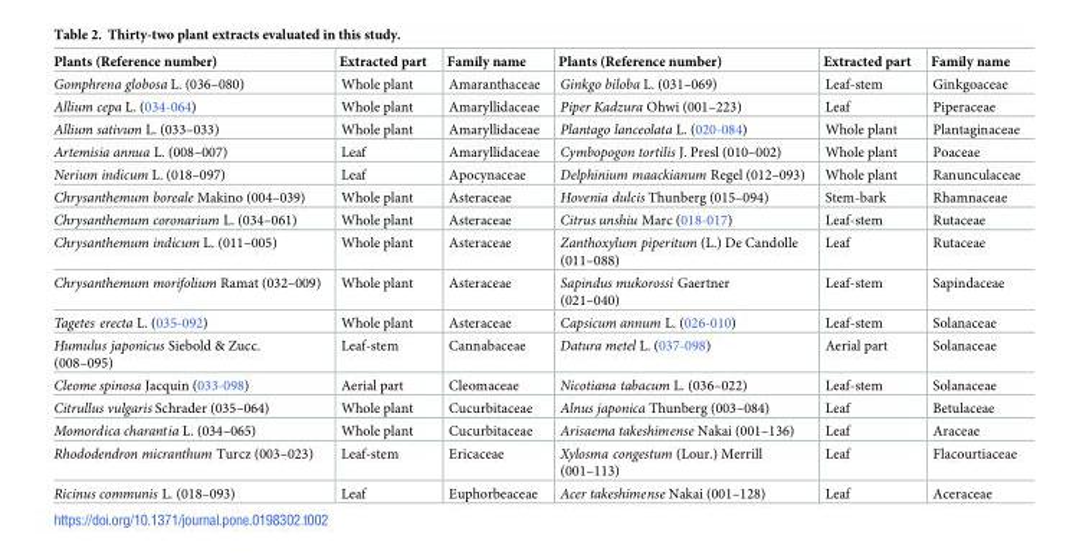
<table><thead><tr><td>Plants (Reference number)</td><td>Extracted part</td><td>Family name</td><td>Plants (Reference number)</td><td>Extracted part</td><td>Family name</td></tr></thead><tbody><tr><td>Gomphrena globosa L. (036–080)</td><td>Whole plant</td><td>Amaranthaceae</td><td>Ginkgo biloba L. (031–069)</td><td>Leaf-stem</td><td>Ginkgoaceae</td></tr><tr><td>Allium cepa L. (034-064)</td><td>Whole plant</td><td>Amaryllidaceae</td><td>Piper Kadzura Ohwi (001–223)</td><td>Leaf</td><td>Piperaceae</td></tr><tr><td>Allium sativum L. (033–033)</td><td>Whole plant</td><td>Amaryllidaceae</td><td>Plantago lanceolata L. (020-084)</td><td>Whole plant</td><td>Plantaginaceae</td></tr><tr><td>Artemisia annua L. (008–007)</td><td>Leaf</td><td>Amaryllidaceae</td><td>Cymbopogon tortilis J. Presl (010–002)</td><td>Whole plant</td><td>Poaceae</td></tr><tr><td>Nerium indicum L. (018–097)</td><td>Leaf</td><td>Apocynaceae</td><td>Delphinium maackianum Regel (012–093)</td><td>Whole plant</td><td>Ranunculaceae</td></tr><tr><td>Chrysanthemum boreale Makino (004–039)</td><td>Whole plant</td><td>Asteraceae</td><td>Hovenia dulcis Thunberg (015–094)</td><td>Stem-bark</td><td>Rhamnaceae</td></tr><tr><td>Chrysanthemum coronarium L. (034–061)</td><td>Whole plant</td><td>Asteraceae</td><td>Citrus unshiu Marc (018-017)</td><td>Leaf-stem</td><td>Rutaceae</td></tr><tr><td>Chrysanthemum indicum L. (011–005)</td><td>Whole plant</td><td>Asteraceae</td><td>Zanthoxylum piperitum (L.) De Candolle (011–088)</td><td>Leaf</td><td>Rutaceae</td></tr><tr><td>Chrysanthemum morifolium Ramat (032–009)</td><td>Whole plant</td><td>Asteraceae</td><td>Sapindus mukorossi Gaertner (021–040)</td><td>Leaf-stem</td><td>Sapindaceae</td></tr><tr><td>Tagetes erecta L. (035-092)</td><td>Whole plant</td><td>Asteraceae</td><td>Capsicum annum L. (026-010)</td><td>Leaf-stem</td><td>Solanaceae</td></tr><tr><td>Humulus japonicus Siebold &amp; Zucc. (008–095)</td><td>Leaf-stem</td><td>Cannabaceae</td><td>Datura metel L. (037-098)</td><td>Aerial part</td><td>Solanaceae</td></tr><tr><td>Cleome spinosa Jacquin (033-098)</td><td>Aerial part</td><td>Cleomaceae</td><td>Nicotiana tabacum L. (036–022)</td><td>Leaf-stem</td><td>Solanaceae</td></tr><tr><td>Citrullus vulgaris Schrader (035–064)</td><td>Whole plant</td><td>Cucurbitaceae</td><td>Alnus japonica Thunberg (003–084)</td><td>Leaf</td><td>Betulaceae</td></tr><tr><td>Momordica charantia L. (034–065)</td><td>Whole plant</td><td>Cucurbitaceae</td><td>Arisaema takeshimense Nakai (001–136)</td><td>Leaf</td><td>Araceae</td></tr><tr><td>Rhododendron micranthum Turcz (003–023)</td><td>Leaf-stem</td><td>Ericaceae</td><td>Xylosma congestum (Lour.) Merrill (001–113)</td><td>Leaf</td><td>Flacourtiaceae</td></tr><tr><td>Ricinus communis L. (018–093)</td><td>Leaf</td><td>Euphorbeaceae</td><td>Acer takeshimense Nakai (001–128)</td><td>Leaf</td><td>Aceraceae</td></tr></tbody></table>